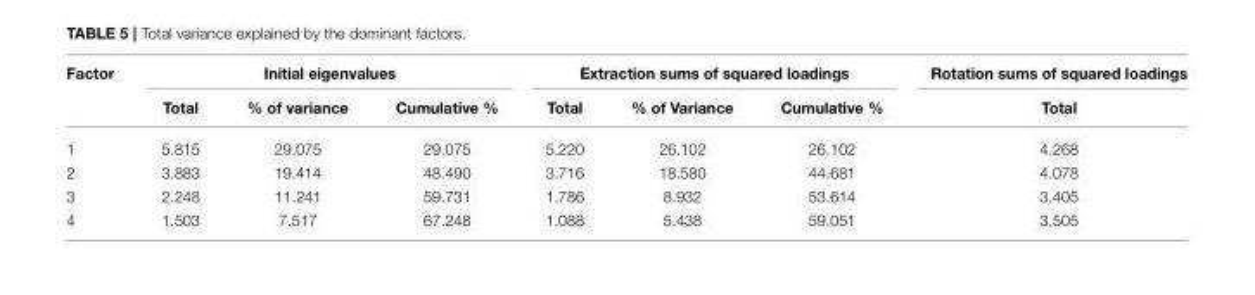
<table><thead><tr><td rowspan="2">Factor</td><td colspan="3">Initial eigenvalues</td><td colspan="3">Extraction sums of squared loadings</td><td rowspan="2">Rotation sums of squared loadings Total</td></tr><tr><td>Total</td><td>% of variance</td><td>Cumulative %</td><td>Total</td><td>% of Variance</td><td>Cumulative %</td></tr></thead><tbody><tr><td>1</td><td>5.815</td><td>29.075</td><td>29.075</td><td>5.220</td><td>26.102</td><td>26.102</td><td>4.268</td></tr><tr><td>2</td><td>3.883</td><td>19.414</td><td>48.490</td><td>3.716</td><td>18.580</td><td>44.681</td><td>4.078</td></tr><tr><td>3</td><td>2.248</td><td>11.241</td><td>59.731</td><td>1.786</td><td>8.932</td><td>53.614</td><td>3.405</td></tr><tr><td>4</td><td>1.503</td><td>7.517</td><td>67.248</td><td>1.088</td><td>5.438</td><td>59.051</td><td>3.505</td></tr></tbody></table>